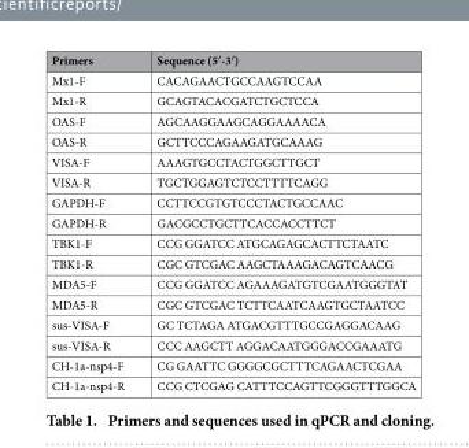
<table><thead><tr><td>Primers</td><td>Sequence (5′ -3′ )</td></tr></thead><tbody><tr><td>Mx1-F</td><td>CACAGAACTGCCAAGTCCAA</td></tr><tr><td>Mx1-R</td><td>GCAGTACACGATCTGCTCCA</td></tr><tr><td>OAS-F</td><td>AGCAAGGAAGCAGGAAAACA</td></tr><tr><td>OAS-R</td><td>GCTTCCCAGAAGATGCAAAG</td></tr><tr><td>VISA-F</td><td>AAAGTGCCTACTGGCTTGCT</td></tr><tr><td>VISA-R</td><td>TGCTGGAGTCTCCTTTTCAGG</td></tr><tr><td>GAPDH-F</td><td>CCTTCCGTGTCCCTACTGCCAAC</td></tr><tr><td>GAPDH-R</td><td>GACGCCTGCTTCACCACCTTCT</td></tr><tr><td>TBK1-F</td><td>CCG GGATCC ATGCAGAGCACTTCTAATC</td></tr><tr><td>TBK1-R</td><td>CGC GTCGAC AAGCTAAAGACAGTCAACG</td></tr><tr><td>MDA5-F</td><td>CCG GGATCC AGAAAGATGTCGAATGGGTAT</td></tr><tr><td>MDA5-R</td><td>CGC GTCGAC TCTTCAATCAAGTGCTAATCC</td></tr><tr><td>sus-VISA-F</td><td>GC TCTAGA ATGACGTTTGCCGAGGACAAG</td></tr><tr><td>sus-VISA-R</td><td>CCC AAGCTT AGGACAATGGGACCGAAATG</td></tr><tr><td>CH-1a-nsp4-F</td><td>CG GAATTC GGGGCGCTTTCAGAACTCGAA</td></tr><tr><td>CH-1a-nsp4-R</td><td>CCG CTCGAG CATTTCCAGTTCGGGTTTGGCA</td></tr></tbody></table>